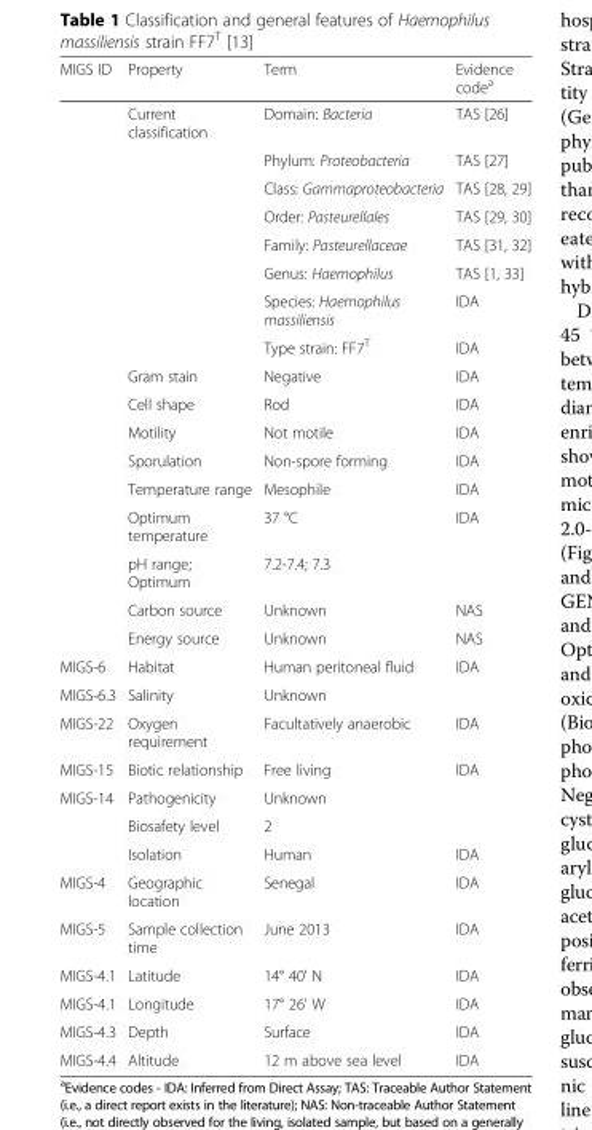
<table><thead><tr><td>MIGS ID</td><td>Property</td><td>Term</td><td>Evidence codea</td></tr></thead><tbody><tr><td></td><td>Current classification</td><td>Domain: Bacteria</td><td>TAS [26]</td></tr><tr><td></td><td></td><td>Phylum: Proteobacteria</td><td>TAS [27]</td></tr><tr><td></td><td></td><td>Class: Gammaproteobacteria</td><td>TAS [28, 29]</td></tr><tr><td></td><td></td><td>Order: Pasteurellales</td><td>TAS [29, 30]</td></tr><tr><td></td><td></td><td>Family: Pasteurellaceae</td><td>TAS [31, 32]</td></tr><tr><td></td><td></td><td>Genus: Haemophilus</td><td>TAS [1, 33]</td></tr><tr><td></td><td></td><td>Species: Haemophilus massiliensis</td><td>IDA</td></tr><tr><td></td><td></td><td>Type strain: FF7T</td><td>IDA</td></tr><tr><td></td><td>Gram stain</td><td>Negative</td><td>IDA</td></tr><tr><td></td><td>Cell shape</td><td>Rod</td><td>IDA</td></tr><tr><td></td><td>Motility</td><td>Not motile</td><td>IDA</td></tr><tr><td></td><td>Sporulation</td><td>Non-spore forming</td><td>IDA</td></tr><tr><td></td><td>Temperature range</td><td>Mesophile</td><td>IDA</td></tr><tr><td></td><td>Optimum temperature</td><td>37 °C</td><td>IDA</td></tr><tr><td></td><td>pH range; Optimum</td><td>7.2-7.4; 7.3</td><td></td></tr><tr><td></td><td>Carbon source</td><td>Unknown</td><td>NAS</td></tr><tr><td></td><td>Energy source</td><td>Unknown</td><td>NAS</td></tr><tr><td>MIGS-6</td><td>Habitat</td><td>Human peritoneal fluid</td><td>IDA</td></tr><tr><td>MIGS-6.3</td><td>Salinity</td><td>Unknown</td><td></td></tr><tr><td>MIGS-22</td><td>Oxygen requirement</td><td>Facultatively anaerobic</td><td>IDA</td></tr><tr><td>MIGS-15</td><td>Biotic relationship</td><td>Free living</td><td>IDA</td></tr><tr><td rowspan="3">MIGS-14</td><td>Pathogenicity</td><td>Unknown</td><td></td></tr><tr><td>Biosafety level</td><td>2</td><td></td></tr><tr><td>Isolation</td><td>Human</td><td>IDA</td></tr><tr><td>MIGS-4</td><td>Geographic location</td><td>Senegal</td><td>IDA</td></tr><tr><td>MIGS-5</td><td>Sample collection time</td><td>June 2013</td><td>IDA</td></tr><tr><td>MIGS-4.1</td><td>Latitude</td><td>14° 40&#x27; N</td><td>IDA</td></tr><tr><td>MIGS-4.1</td><td>Longitude</td><td>17° 26&#x27; W</td><td>IDA</td></tr><tr><td>MIGS-4.3</td><td>Depth</td><td>Surface</td><td>IDA</td></tr><tr><td>MIGS-4.4</td><td>Altitude</td><td>12 m above sea level</td><td>IDA</td></tr></tbody></table>